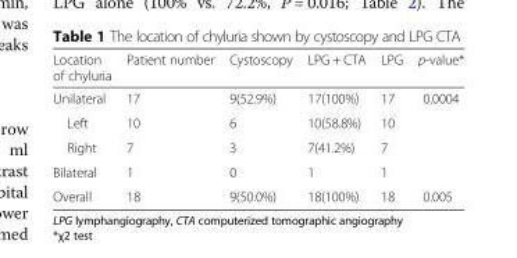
<table><thead><tr><td>Location of chyluria</td><td>Patient number</td><td>Cystoscopy</td><td>LPG + CTA</td><td>LPG</td><td>p-value*</td></tr></thead><tbody><tr><td>Unilateral</td><td>17</td><td>9(52.9%)</td><td>17(100%)</td><td>17</td><td>0.0004</td></tr><tr><td>Left</td><td>10</td><td>6</td><td>10(58.8%)</td><td>10</td><td></td></tr><tr><td>Right</td><td>7</td><td>3</td><td>7(41.2%)</td><td>7</td><td></td></tr><tr><td>Bilateral</td><td>1</td><td>0</td><td>1</td><td>1</td><td></td></tr><tr><td>Overall</td><td>18</td><td>9(50.0%)</td><td>18(100%)</td><td>18</td><td>0.005</td></tr></tbody></table>